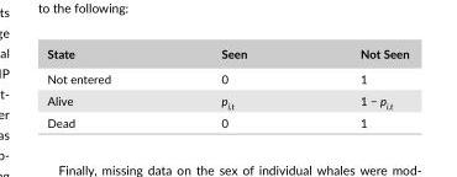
<table><thead><tr><td>State</td><td>Seen</td><td>Not Seen</td></tr></thead><tbody><tr><td>Not entered</td><td>0</td><td>1</td></tr><tr><td>Alive</td><td>p<sub>i,t</sub></td><td>1 − p<sub>i,t</sub></td></tr><tr><td>Dead</td><td>0</td><td>1</td></tr></tbody></table>